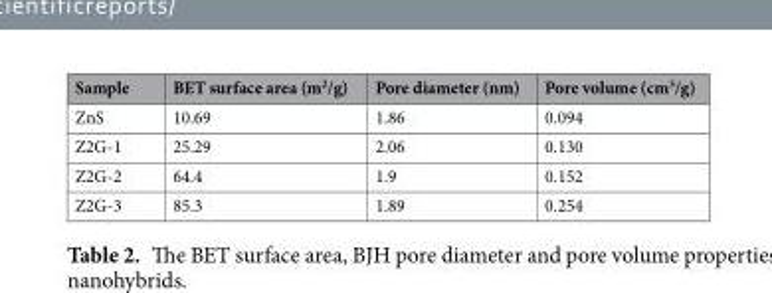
<table><thead><tr><td>Sample</td><td>BET surface area (m<sup>2</sup>/g)</td><td>Pore diameter (nm)</td><td>Pore volume (cm<sup>3</sup>/g)</td></tr></thead><tbody><tr><td>ZnS</td><td>10.69</td><td>1.86</td><td>0.094</td></tr><tr><td>Z2G-1</td><td>25.29</td><td>2.06</td><td>0.130</td></tr><tr><td>Z2G-2</td><td>64.4</td><td>1.9</td><td>0.152</td></tr><tr><td>Z2G-3</td><td>85.3</td><td>1.89</td><td>0.254</td></tr></tbody></table>